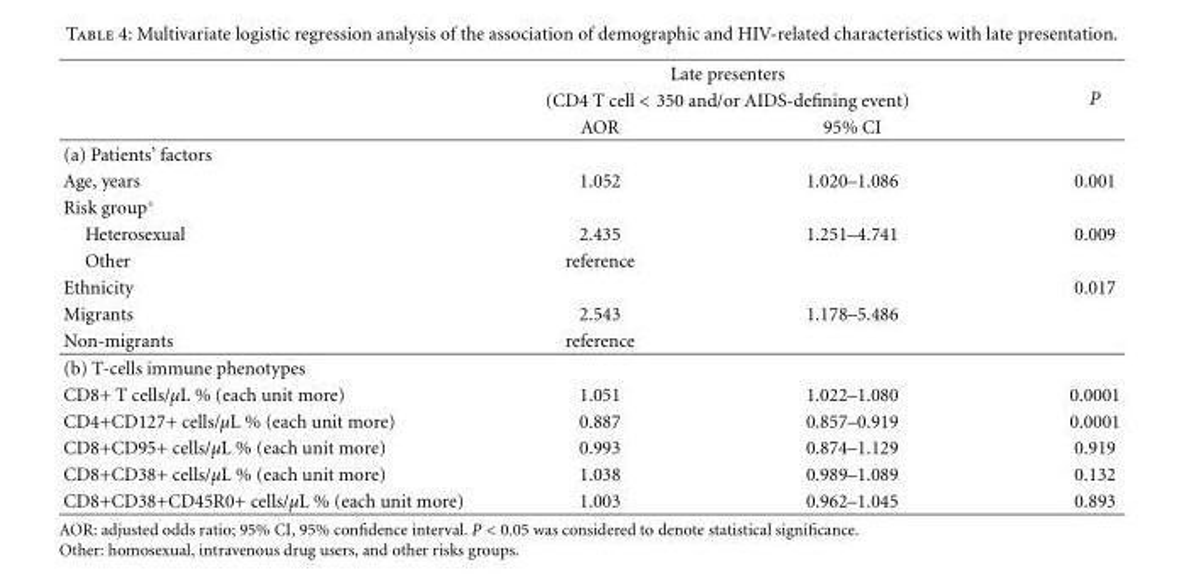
<table><thead><tr><td rowspan="3"></td><td rowspan="2" colspan="2">Late presenters (CD4 T cell &lt; 350 and/or AIDS-defining event)</td><td rowspan="3">P</td></tr><tr></tr><tr><td>AOR</td><td>95% CI</td></tr></thead><tbody><tr><td colspan="4">(a) Patients’ factors</td></tr><tr><td>Age, years</td><td>1.052</td><td>1.020–1.086</td><td>0.001</td></tr><tr><td colspan="4">Risk group◦</td></tr><tr><td>Heterosexual</td><td>2.435</td><td>1.251–4.741</td><td>0.009</td></tr><tr><td>Other</td><td>reference</td><td></td><td></td></tr><tr><td>Ethnicity</td><td></td><td></td><td>0.017</td></tr><tr><td>Migrants</td><td>2.543</td><td>1.178–5.486</td><td></td></tr><tr><td>Non-migrants</td><td>reference</td><td></td><td></td></tr><tr><td colspan="4">(b) T-cells immune phenotypes</td></tr><tr><td>CD8+ T cells/μL % (each unit more)</td><td>1.051</td><td>1.022–1.080</td><td>0.0001</td></tr><tr><td>CD4+CD127+ cells/μL % (each unit more)</td><td>0.887</td><td>0.857–0.919</td><td>0.0001</td></tr><tr><td>CD8+CD95+ cells/μL % (each unit more)</td><td>0.993</td><td>0.874–1.129</td><td>0.919</td></tr><tr><td>CD8+CD38+ cells/μL % (each unit more)</td><td>1.038</td><td>0.989–1.089</td><td>0.132</td></tr><tr><td>CD8+CD38+CD45R0+ cells/μL % (each unit more)</td><td>1.003</td><td>0.962–1.045</td><td>0.893</td></tr></tbody></table>